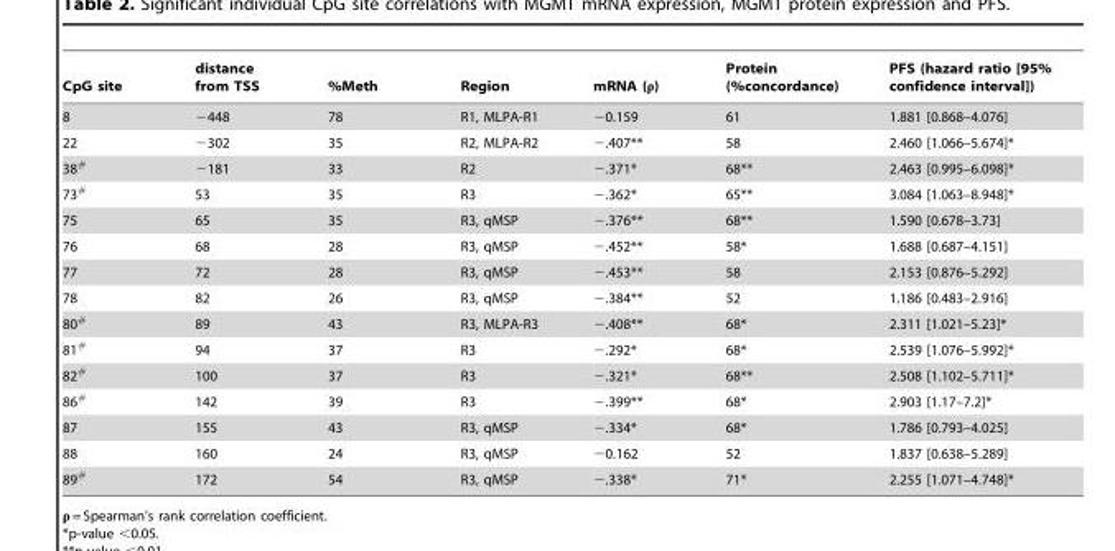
<table><thead><tr><td>CpG site</td><td>distance from TSS</td><td>%Meth</td><td>Region</td><td>mRNA (ρ)</td><td>Protein (%concordance)</td><td>PFS (hazard ratio [95% confidence interval])</td></tr></thead><tbody><tr><td>8</td><td>−448</td><td>78</td><td>R1, MLPA-R1</td><td>−0.159</td><td>61</td><td>1.881 [0.868–4.076]</td></tr><tr><td>22</td><td>−302</td><td>35</td><td>R2, MLPA-R2</td><td>−.407**</td><td>58</td><td>2.460 [1.066–5.674]*</td></tr><tr><td>38#</td><td>−181</td><td>33</td><td>R2</td><td>−.371*</td><td>68**</td><td>2.463 [0.995–6.098]*</td></tr><tr><td>73#</td><td>53</td><td>35</td><td>R3</td><td>−.362*</td><td>65**</td><td>3.084 [1.063–8.948]*</td></tr><tr><td>75</td><td>65</td><td>35</td><td>R3, qMSP</td><td>−.376**</td><td>68**</td><td>1.590 [0.678–3.73]</td></tr><tr><td>76</td><td>68</td><td>28</td><td>R3, qMSP</td><td>−.452**</td><td>58*</td><td>1.688 [0.687–4.151]</td></tr><tr><td>77</td><td>72</td><td>28</td><td>R3, qMSP</td><td>−.453**</td><td>58</td><td>2.153 [0.876–5.292]</td></tr><tr><td>78</td><td>82</td><td>26</td><td>R3, qMSP</td><td>−.384**</td><td>52</td><td>1.186 [0.483–2.916]</td></tr><tr><td>80#</td><td>89</td><td>43</td><td>R3, MLPA-R3</td><td>−.408**</td><td>68*</td><td>2.311 [1.021–5.23]*</td></tr><tr><td>81#</td><td>94</td><td>37</td><td>R3</td><td>−.292*</td><td>68*</td><td>2.539 [1.076–5.992]*</td></tr><tr><td>82#</td><td>100</td><td>37</td><td>R3</td><td>−.321*</td><td>68**</td><td>2.508 [1.102–5.711]*</td></tr><tr><td>86#</td><td>142</td><td>39</td><td>R3</td><td>−.399**</td><td>68*</td><td>2.903 [1.17–7.2]*</td></tr><tr><td>87</td><td>155</td><td>43</td><td>R3, qMSP</td><td>−.334*</td><td>68*</td><td>1.786 [0.793–4.025]</td></tr><tr><td>88</td><td>160</td><td>24</td><td>R3, qMSP</td><td>−0.162</td><td>52</td><td>1.837 [0.638–5.289]</td></tr><tr><td>89#</td><td>172</td><td>54</td><td>R3, qMSP</td><td>−.338*</td><td>71*</td><td>2.255 [1.071–4.748]*</td></tr></tbody></table>